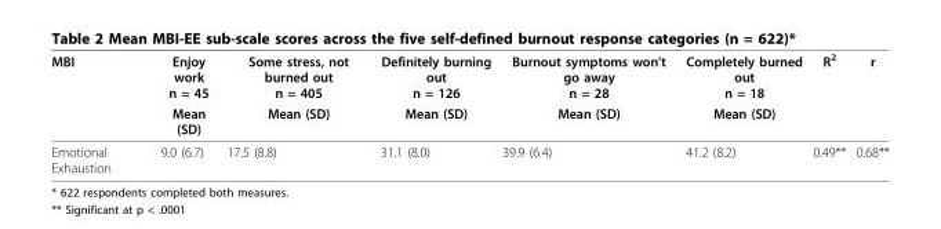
<table><thead><tr><td rowspan="2">MBI</td><td rowspan="2">Enjoy work n = 45 Mean (SD)</td><td rowspan="2">Some stress, not burned out n = 405 Mean (SD)</td><td rowspan="2">Definitely burning out n = 126 Mean (SD)</td><td rowspan="2">Burnout symptoms won’t go away n = 28 Mean (SD)</td><td rowspan="2">Completely burned out n = 18 Mean (SD)</td><td rowspan="2">R<sup>2</sup></td><td rowspan="2">r</td></tr><tr></tr></thead><tbody><tr><td>Emotional Exhaustion</td><td>9.0 (6.7)</td><td>17.5 (8.8)</td><td>31.1 (8.0)</td><td>39.9 (6.4)</td><td>41.2 (8.2)</td><td>0.49**</td><td>0.68**</td></tr></tbody></table>